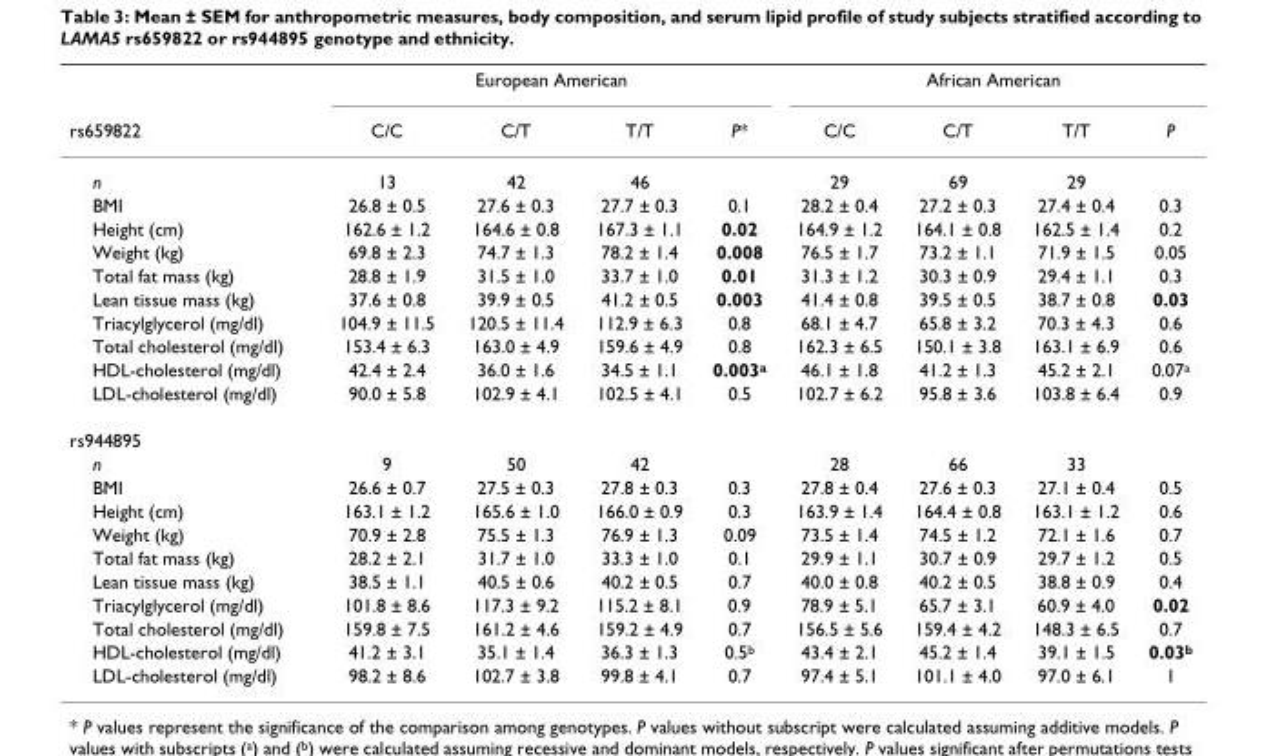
<table><thead><tr><td rowspan="2">rs659822</td><td colspan="4">European American</td><td colspan="4">African American</td></tr><tr><td>C/C</td><td>C/T</td><td>T/T</td><td>P*</td><td>C/C</td><td>C/T</td><td>T/T</td><td>P</td></tr></thead><tbody><tr><td>n</td><td>13</td><td>42</td><td>46</td><td></td><td>29</td><td>69</td><td>29</td><td></td></tr><tr><td>BMI</td><td>26.8 ± 0.5</td><td>27.6 ± 0.3</td><td>27.7 ± 0.3</td><td>0.1</td><td>28.2 ± 0.4</td><td>27.2 ± 0.3</td><td>27.4 ± 0.4</td><td>0.3</td></tr><tr><td>Height (cm)</td><td>162.6 ± 1.2</td><td>164.6 ± 0.8</td><td>167.3 ± 1.1</td><td>0.02</td><td>164.9 ± 1.2</td><td>164.1 ± 0.8</td><td>162.5 ± 1.4</td><td>0.2</td></tr><tr><td>Weight (kg)</td><td>69.8 ± 2.3</td><td>74.7 ± 1.3</td><td>78.2 ± 1.4</td><td>0.008</td><td>76.5 ± 1.7</td><td>73.2 ± 1.1</td><td>71.9 ± 1.5</td><td>0.05</td></tr><tr><td>Total fat mass (kg)</td><td>28.8 ± 1.9</td><td>31.5 ± 1.0</td><td>33.7 ± 1.0</td><td>0.01</td><td>31.3 ± 1.2</td><td>30.3 ± 0.9</td><td>29.4 ± 1.1</td><td>0.3</td></tr><tr><td>Lean tissue mass (kg)</td><td>37.6 ± 0.8</td><td>39.9 ± 0.5</td><td>41.2 ± 0.5</td><td>0.003</td><td>41.4 ± 0.8</td><td>39.5 ± 0.5</td><td>38.7 ± 0.8</td><td>0.03</td></tr><tr><td>Triacylglycerol (mg/dl)</td><td>104.9 ± 11.5</td><td>120.5 ± 11.4</td><td>112.9 ± 6.3</td><td>0.8</td><td>68.1 ± 4.7</td><td>65.8 ± 3.2</td><td>70.3 ± 4.3</td><td>0.6</td></tr><tr><td>Total cholesterol (mg/dl)</td><td>153.4 ± 6.3</td><td>163.0 ± 4.9</td><td>159.6 ± 4.9</td><td>0.8</td><td>162.3 ± 6.5</td><td>150.1 ± 3.8</td><td>163.1 ± 6.9</td><td>0.6</td></tr><tr><td>HDL-cholesterol (mg/dl)</td><td>42.4 ± 2.4</td><td>36.0 ± 1.6</td><td>34.5 ± 1.1</td><td>0.003<sup>a</sup></td><td>46.1 ± 1.8</td><td>41.2 ± 1.3</td><td>45.2 ± 2.1</td><td>0.07<sup>a</sup></td></tr><tr><td>LDL-cholesterol (mg/dl)</td><td>90.0 ± 5.8</td><td>102.9 ± 4.1</td><td>102.5 ± 4.1</td><td>0.5</td><td>102.7 ± 6.2</td><td>95.8 ± 3.6</td><td>103.8 ± 6.4</td><td>0.9</td></tr><tr><td colspan="9">rs944895</td></tr><tr><td>n</td><td>9</td><td>50</td><td>42</td><td></td><td>28</td><td>66</td><td>33</td><td></td></tr><tr><td>BMI</td><td>26.6 ± 0.7</td><td>27.5 ± 0.3</td><td>27.8 ± 0.3</td><td>0.3</td><td>27.8 ± 0.4</td><td>27.6 ± 0.3</td><td>27.1 ± 0.4</td><td>0.5</td></tr><tr><td>Height (cm)</td><td>163.1 ± 1.2</td><td>165.6 ± 1.0</td><td>166.0 ± 0.9</td><td>0.3</td><td>163.9 ± 1.4</td><td>164.4 ± 0.8</td><td>163.1 ± 1.2</td><td>0.6</td></tr><tr><td>Weight (kg)</td><td>70.9 ± 2.8</td><td>75.5 ± 1.3</td><td>76.9 ± 1.3</td><td>0.09</td><td>73.5 ± 1.4</td><td>74.5 ± 1.2</td><td>72.1 ± 1.6</td><td>0.7</td></tr><tr><td>Total fat mass (kg)</td><td>28.2 ± 2.1</td><td>31.7 ± 1.0</td><td>33.3 ± 1.0</td><td>0.1</td><td>29.9 ± 1.1</td><td>30.7 ± 0.9</td><td>29.7 ± 1.2</td><td>0.5</td></tr><tr><td>Lean tissue mass (kg)</td><td>38.5 ± 1.1</td><td>40.5 ± 0.6</td><td>40.2 ± 0.5</td><td>0.7</td><td>40.0 ± 0.8</td><td>40.2 ± 0.5</td><td>38.8 ± 0.9</td><td>0.4</td></tr><tr><td>Triacylglycerol (mg/dl)</td><td>101.8 ± 8.6</td><td>117.3 ± 9.2</td><td>115.2 ± 8.1</td><td>0.9</td><td>78.9 ± 5.1</td><td>65.7 ± 3.1</td><td>60.9 ± 4.0</td><td>0.02</td></tr><tr><td>Total cholesterol (mg/dl)</td><td>159.8 ± 7.5</td><td>161.2 ± 4.6</td><td>159.2 ± 4.9</td><td>0.7</td><td>156.5 ± 5.6</td><td>159.4 ± 4.2</td><td>148.3 ± 6.5</td><td>0.7</td></tr><tr><td>HDL-cholesterol (mg/dl)</td><td>41.2 ± 3.1</td><td>35.1 ± 1.4</td><td>36.3 ± 1.3</td><td>0.5<sup>b</sup></td><td>43.4 ± 2.1</td><td>45.2 ± 1.4</td><td>39.1 ± 1.5</td><td>0.03<sup>b</sup></td></tr><tr><td>LDL-cholesterol (mg/dl)</td><td>98.2 ± 8.6</td><td>102.7 ± 3.8</td><td>99.8 ± 4.1</td><td>0.7</td><td>97.4 ± 5.1</td><td>101.1 ± 4.0</td><td>97.0 ± 6.1</td><td>1</td></tr></tbody></table>